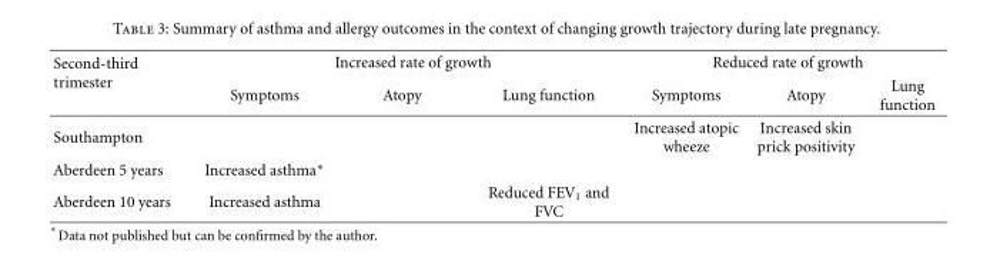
<table><tbody><tr><td rowspan="2">Second-third trimester</td><td colspan="3">Increased rate of growth</td><td colspan="3">Reduced rate of growth</td></tr><tr><td>Symptoms</td><td>Atopy</td><td>Lung function</td><td>Symptoms</td><td>Atopy</td><td>Lung function</td></tr><tr><td>Southampton</td><td></td><td></td><td></td><td>Increased atopic wheeze</td><td>Increased skin prick positivity</td><td></td></tr><tr><td>Aberdeen 5 years</td><td>Increased asthma∗</td><td></td><td></td><td></td><td></td><td></td></tr><tr><td>Aberdeen 10 years</td><td>Increased asthma</td><td></td><td>Reduced FEV<sub>1</sub> and FVC</td><td></td><td></td><td></td></tr></tbody></table>